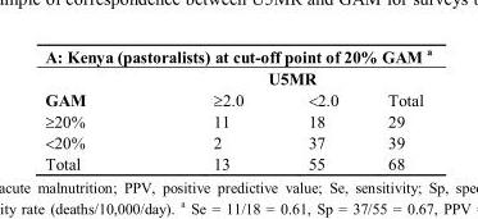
<table><thead><tr><td colspan="4">A: Kenya (pastoralists) at cut-off point of 20% GAM <sup>a</sup></td></tr><tr><td rowspan="2">GAM</td><td colspan="2">U5MR</td><td rowspan="2">Total</td></tr><tr><td>≥2.0</td><td>&lt;2.0</td></tr></thead><tbody><tr><td>≥20%</td><td>11</td><td>18</td><td>29</td></tr><tr><td>&lt;20%</td><td>2</td><td>37</td><td>39</td></tr><tr><td>Total</td><td>13</td><td>55</td><td>68</td></tr></tbody></table>